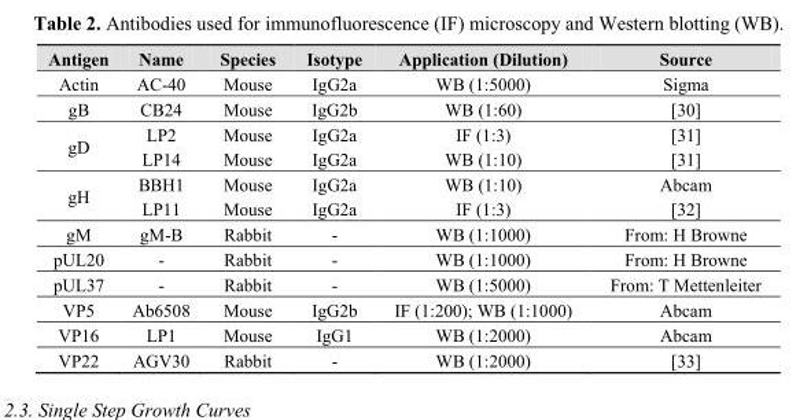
<table><thead><tr><td>Antigen</td><td>Name</td><td>Species</td><td>Isotype</td><td>Application (Dilution)</td><td>Source</td></tr></thead><tbody><tr><td>Actin</td><td>AC-40</td><td>Mouse</td><td>IgG2a</td><td>WB (1:5000)</td><td>Sigma</td></tr><tr><td>gB</td><td>CB24</td><td>Mouse</td><td>IgG2b</td><td>WB (1:60)</td><td>[30]</td></tr><tr><td rowspan="2">gD</td><td>LP2</td><td>Mouse</td><td>IgG2a</td><td>IF (1:3)</td><td>[31]</td></tr><tr><td>LP14</td><td>Mouse</td><td>IgG2a</td><td>WB (1:10)</td><td>[31]</td></tr><tr><td rowspan="2">gH</td><td>BBH1</td><td>Mouse</td><td>IgG2a</td><td>WB (1:10)</td><td>Abcam</td></tr><tr><td>LP11</td><td>Mouse</td><td>IgG2a</td><td>IF (1:3)</td><td>[32]</td></tr><tr><td>gM</td><td>gM-B</td><td>Rabbit</td><td>-</td><td>WB (1:1000)</td><td>From: H Browne</td></tr><tr><td>pUL20</td><td>-</td><td>Rabbit</td><td>-</td><td>WB (1:1000)</td><td>From: H Browne</td></tr><tr><td>pUL37</td><td>-</td><td>Rabbit</td><td>-</td><td>WB (1:5000)</td><td>From: T Mettenleiter</td></tr><tr><td>VP5</td><td>Ab6508</td><td>Mouse</td><td>IgG2b</td><td>IF (1:200); WB (1:1000)</td><td>Abcam</td></tr><tr><td>VP16</td><td>LP1</td><td>Mouse</td><td>IgG1</td><td>WB (1:2000)</td><td>Abcam</td></tr><tr><td>VP22</td><td>AGV30</td><td>Rabbit</td><td>-</td><td>WB (1:2000)</td><td>[33]</td></tr></tbody></table>